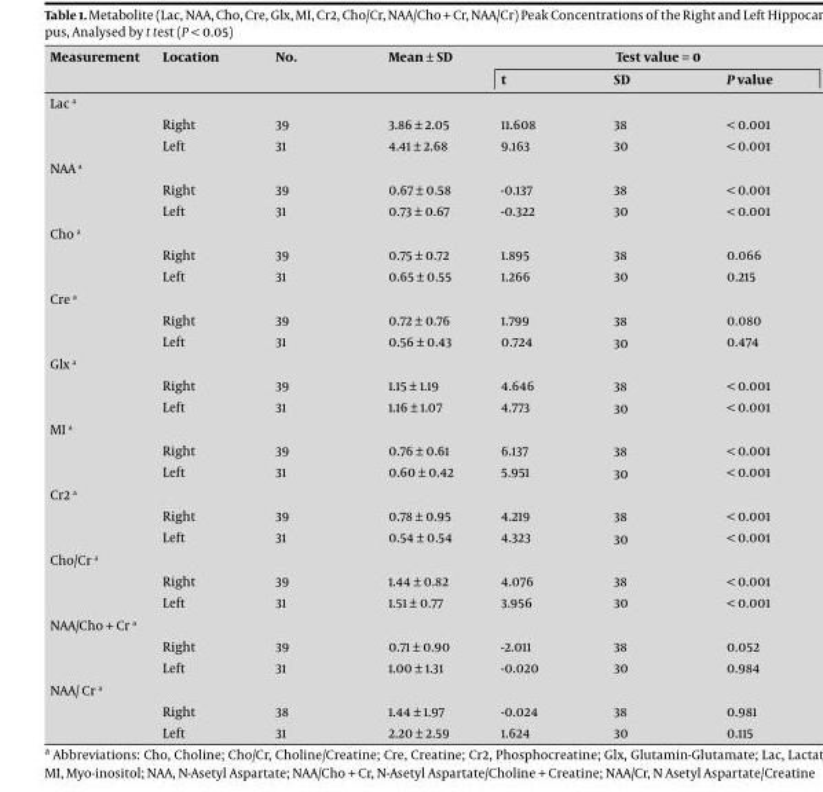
<table><thead><tr><td rowspan="2">Measurement</td><td rowspan="2">Location</td><td rowspan="2">No.</td><td rowspan="2">Mean ± SD</td><td colspan="3">Test value = 0</td></tr><tr><td>t</td><td>SD</td><td>P value</td></tr></thead><tbody><tr><td colspan="7">Lac a</td></tr><tr><td></td><td>Right</td><td>39</td><td>3.86 ± 2.05</td><td>11.608</td><td>38</td><td>&lt; 0.001</td></tr><tr><td></td><td>Left</td><td>31</td><td>4.41 ± 2.68</td><td>9.163</td><td>30</td><td>&lt; 0.001</td></tr><tr><td colspan="7">NAA a</td></tr><tr><td></td><td>Right</td><td>39</td><td>0.67 ± 0.58</td><td>-0.137</td><td>38</td><td>&lt; 0.001</td></tr><tr><td></td><td>Left</td><td>31</td><td>0.73 ± 0.67</td><td>-0.322</td><td>30</td><td>&lt; 0.001</td></tr><tr><td colspan="7">Cho a</td></tr><tr><td></td><td>Right</td><td>39</td><td>0.75 ± 0.72</td><td>1.895</td><td>38</td><td>0.066</td></tr><tr><td></td><td>Left</td><td>31</td><td>0.65 ± 0.55</td><td>1.266</td><td>30</td><td>0.215</td></tr><tr><td colspan="7">Cre a</td></tr><tr><td></td><td>Right</td><td>39</td><td>0.72 ± 0.76</td><td>1.799</td><td>38</td><td>0.080</td></tr><tr><td></td><td>Left</td><td>31</td><td>0.56 ± 0.43</td><td>0.724</td><td>30</td><td>0.474</td></tr><tr><td colspan="7">Glx a</td></tr><tr><td></td><td>Right</td><td>39</td><td>1.15 ± 1.19</td><td>4.646</td><td>38</td><td>&lt; 0.001</td></tr><tr><td></td><td>Left</td><td>31</td><td>1.16 ± 1.07</td><td>4.773</td><td>30</td><td>&lt; 0.001</td></tr><tr><td colspan="7">MI a</td></tr><tr><td></td><td>Right</td><td>39</td><td>0.76 ± 0.61</td><td>6.137</td><td>38</td><td>&lt; 0.001</td></tr><tr><td></td><td>Left</td><td>31</td><td>0.60 ± 0.42</td><td>5.951</td><td>30</td><td>&lt; 0.001</td></tr><tr><td colspan="7">Cr2 a</td></tr><tr><td></td><td>Right</td><td>39</td><td>0.78 ± 0.95</td><td>4.219</td><td>38</td><td>&lt; 0.001</td></tr><tr><td></td><td>Left</td><td>31</td><td>0.54 ± 0.54</td><td>4.323</td><td>30</td><td>&lt; 0.001</td></tr><tr><td colspan="7">Cho/Cr a</td></tr><tr><td></td><td>Right</td><td>39</td><td>1.44 ± 0.82</td><td>4.076</td><td>38</td><td>&lt; 0.001</td></tr><tr><td></td><td>Left</td><td>31</td><td>1.51 ± 0.77</td><td>3.956</td><td>30</td><td>&lt; 0.001</td></tr><tr><td colspan="7">NAA/Cho + Cr a</td></tr><tr><td></td><td>Right</td><td>39</td><td>0.71 ± 0.90</td><td>-2.011</td><td>38</td><td>0.052</td></tr><tr><td></td><td>Left</td><td>31</td><td>1.00 ± 1.31</td><td>-0.020</td><td>30</td><td>0.984</td></tr><tr><td colspan="7">NAA/ Cr a</td></tr><tr><td></td><td>Right</td><td>38</td><td>1.44 ± 1.97</td><td>-0.024</td><td>38</td><td>0.981</td></tr><tr><td></td><td>Left</td><td>31</td><td>2.20 ± 2.59</td><td>1.624</td><td>30</td><td>0.115</td></tr></tbody></table>